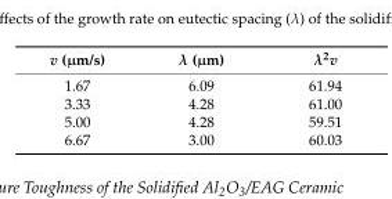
<table><thead><tr><td>v (µm/s)</td><td>λ (µm)</td><td>λ<sup>2</sup>v</td></tr></thead><tbody><tr><td>1.67</td><td>6.09</td><td>61.94</td></tr><tr><td>3.33</td><td>4.28</td><td>61.00</td></tr><tr><td>5.00</td><td>4.28</td><td>59.51</td></tr><tr><td>6.67</td><td>3.00</td><td>60.03</td></tr></tbody></table>